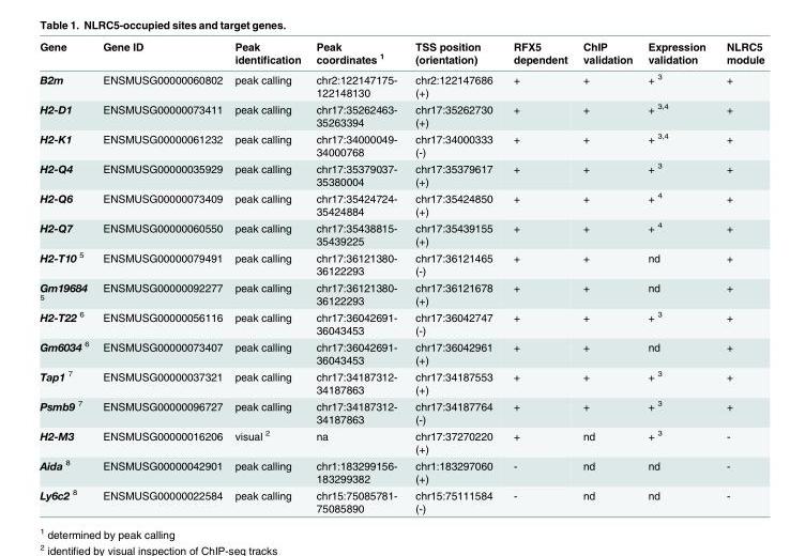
<table><thead><tr><td>Gene</td><td>Gene ID</td><td>Peak identification</td><td>Peak coordinates <sup>1</sup></td><td>TSS position (orientation)</td><td>RFX5 dependent</td><td>ChIP validation</td><td>Expression validation</td><td>NLRC5 module</td></tr></thead><tbody><tr><td>B2m</td><td>ENSMUSG00000060802</td><td>peak calling</td><td>chr2:122147175- 122148130</td><td>chr2:122147686 (+)</td><td>+</td><td>+</td><td>+ <sup>3</sup></td><td>+</td></tr><tr><td>H2-D1</td><td>ENSMUSG00000073411</td><td>peak calling</td><td>chr17:35262463- 35263394</td><td>chr17:35262730 (+)</td><td>+</td><td>+</td><td>+ <sup>3,4</sup></td><td>+</td></tr><tr><td>H2-K1</td><td>ENSMUSG00000061232</td><td>peak calling</td><td>chr17:34000049- 34000768</td><td>chr17:34000333 (-)</td><td>+</td><td>+</td><td>+ <sup>3,4</sup></td><td>+</td></tr><tr><td>H2-Q4</td><td>ENSMUSG00000035929</td><td>peak calling</td><td>chr17:35379037- 35380004</td><td>chr17:35379617 (+)</td><td>+</td><td>+</td><td>+ <sup>3</sup></td><td>+</td></tr><tr><td>H2-Q6</td><td>ENSMUSG00000073409</td><td>peak calling</td><td>chr17:35424724- 35424884</td><td>chr17:35424850 (+)</td><td>+</td><td>+</td><td>+ <sup>4</sup></td><td>+</td></tr><tr><td>H2-Q7</td><td>ENSMUSG00000060550</td><td>peak calling</td><td>chr17:35438815- 35439225</td><td>chr17:35439155 (+)</td><td>+</td><td>+</td><td>+ <sup>4</sup></td><td>+</td></tr><tr><td>H2-T10 <sup>5</sup></td><td>ENSMUSG00000079491</td><td>peak calling</td><td>chr17:36121380- 36122293</td><td>chr17:36121465 (-)</td><td>+</td><td>+</td><td>nd</td><td>+</td></tr><tr><td>Gm19684 <sup>5</sup></td><td>ENSMUSG00000092277</td><td>peak calling</td><td>chr17:36121380- 36122293</td><td>chr17:36121678 (+)</td><td>+</td><td>+</td><td>nd</td><td>+</td></tr><tr><td>H2-T22 <sup>6</sup></td><td>ENSMUSG00000056116</td><td>peak calling</td><td>chr17:36042691- 36043453</td><td>chr17:36042747 (-)</td><td>+</td><td>+</td><td>+ <sup>3</sup></td><td>+</td></tr><tr><td>Gm6034 <sup>6</sup></td><td>ENSMUSG00000073407</td><td>peak calling</td><td>chr17:36042691- 36043453</td><td>chr17:36042961 (+)</td><td>+</td><td>+</td><td>nd</td><td>+</td></tr><tr><td>Tap1 <sup>7</sup></td><td>ENSMUSG00000037321</td><td>peak calling</td><td>chr17:34187312- 34187863</td><td>chr17:34187553 (+)</td><td>+</td><td>+</td><td>+ <sup>3</sup></td><td>+</td></tr><tr><td>Psmb9 <sup>7</sup></td><td>ENSMUSG00000096727</td><td>peak calling</td><td>chr17:34187312- 34187863</td><td>chr17:34187764 (-)</td><td>+</td><td>+</td><td>+ <sup>3</sup></td><td>+</td></tr><tr><td>H2-M3</td><td>ENSMUSG00000016206</td><td>visual <sup>2</sup></td><td>na</td><td>chr17:37270220 (+)</td><td>+</td><td>nd</td><td>+ <sup>3</sup></td><td>-</td></tr><tr><td>Aida <sup>8</sup></td><td>ENSMUSG00000042901</td><td>peak calling</td><td>chr1:183299156- 183299382</td><td>chr1:183297060 (+)</td><td>-</td><td>nd</td><td>nd</td><td>-</td></tr><tr><td>Ly6c2 <sup>8</sup></td><td>ENSMUSG00000022584</td><td>peak calling</td><td>chr15:75085781- 75085890</td><td>chr15:75111584 (-)</td><td>-</td><td>nd</td><td>nd</td><td>-</td></tr></tbody></table>